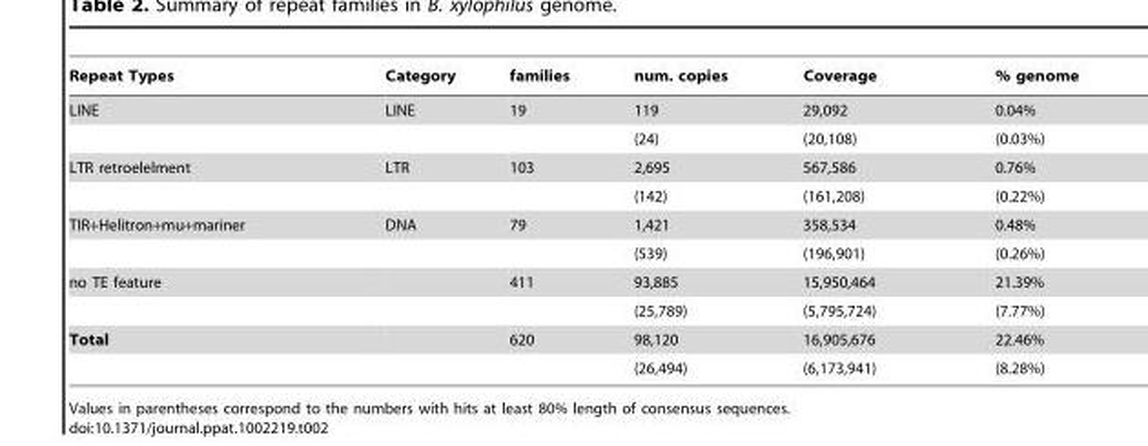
<table><thead><tr><td>Repeat Types</td><td>Category</td><td>families</td><td>num. copies</td><td>Coverage</td><td>% genome</td></tr></thead><tbody><tr><td rowspan="2">LINE</td><td>LINE</td><td>19</td><td>119</td><td>29,092</td><td>0.04%</td></tr><tr><td></td><td></td><td>(24)</td><td>(20,108)</td><td>(0.03%)</td></tr><tr><td rowspan="2">LTR retroelelment</td><td>LTR</td><td>103</td><td>2,695</td><td>567,586</td><td>0.76%</td></tr><tr><td></td><td></td><td>(142)</td><td>(161,208)</td><td>(0.22%)</td></tr><tr><td rowspan="2">TIR+Helitron+mu+mariner</td><td>DNA</td><td>79</td><td>1,421</td><td>358,534</td><td>0.48%</td></tr><tr><td></td><td></td><td>(539)</td><td>(196,901)</td><td>(0.26%)</td></tr><tr><td rowspan="2">no TE feature</td><td></td><td>411</td><td>93,885</td><td>15,950,464</td><td>21.39%</td></tr><tr><td></td><td></td><td>(25,789)</td><td>(5,795,724)</td><td>(7.77%)</td></tr><tr><td rowspan="2">Total</td><td></td><td>620</td><td>98,120</td><td>16,905,676</td><td>22.46%</td></tr><tr><td></td><td></td><td>(26,494)</td><td>(6,173,941)</td><td>(8.28%)</td></tr></tbody></table>